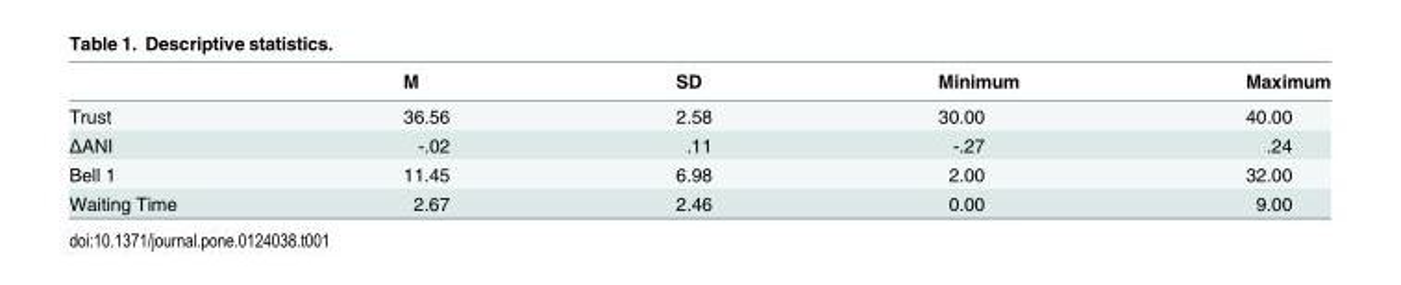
<table><thead><tr><td></td><td>M</td><td>SD</td><td>Minimum</td><td>Maximum</td></tr></thead><tbody><tr><td>Trust</td><td>36.56</td><td>2.58</td><td>30.00</td><td>40.00</td></tr><tr><td>ΔANI</td><td>-.02</td><td>.11</td><td>-.27</td><td>.24</td></tr><tr><td>Bell 1</td><td>11.45</td><td>6.98</td><td>2.00</td><td>32.00</td></tr><tr><td>Waiting Time</td><td>2.67</td><td>2.46</td><td>0.00</td><td>9.00</td></tr></tbody></table>